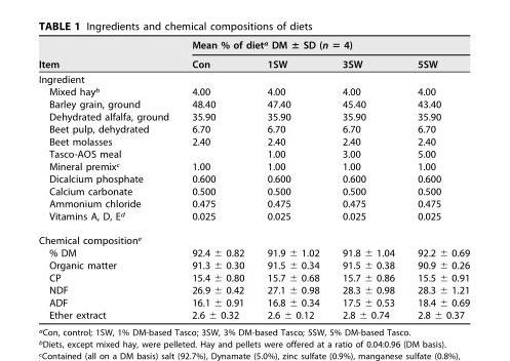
<table><thead><tr><td rowspan="2">Item</td><td colspan="4">Mean % of diet<sup>a</sup> DM ± SD (n = 4)</td></tr><tr><td>Con</td><td>1SW</td><td>3SW</td><td>5SW</td></tr></thead><tbody><tr><td colspan="5">Ingredient</td></tr><tr><td>Mixed hay<sup>b</sup></td><td>4.00</td><td>4.00</td><td>4.00</td><td>4.00</td></tr><tr><td>Barley grain, ground</td><td>48.40</td><td>47.40</td><td>45.40</td><td>43.40</td></tr><tr><td>Dehydrated alfalfa, ground</td><td>35.90</td><td>35.90</td><td>35.90</td><td>35.90</td></tr><tr><td>Beet pulp, dehydrated</td><td>6.70</td><td>6.70</td><td>6.70</td><td>6.70</td></tr><tr><td>Beet molasses</td><td>2.40</td><td>2.40</td><td>2.40</td><td>2.40</td></tr><tr><td>Tasco-AOS meal</td><td></td><td>1.00</td><td>3.00</td><td>5.00</td></tr><tr><td>Mineral premix<sup>c</sup></td><td>1.00</td><td>1.00</td><td>1.00</td><td>1.00</td></tr><tr><td>Dicalcium phosphate</td><td>0.600</td><td>0.600</td><td>0.600</td><td>0.600</td></tr><tr><td>Calcium carbonate</td><td>0.500</td><td>0.500</td><td>0.500</td><td>0.500</td></tr><tr><td>Ammonium chloride</td><td>0.475</td><td>0.475</td><td>0.475</td><td>0.475</td></tr><tr><td>Vitamins A, D, E<sup>d</sup></td><td>0.025</td><td>0.025</td><td>0.025</td><td>0.025</td></tr><tr><td colspan="5">Chemical composition<sup>e</sup></td></tr><tr><td>% DM</td><td>92.4 ± 0.82</td><td>91.9 ± 1.02</td><td>91.8 ± 1.04</td><td>92.2 ± 0.69</td></tr><tr><td>Organic matter</td><td>91.3 ± 0.30</td><td>91.5 ± 0.34</td><td>91.5 ± 0.38</td><td>90.9 ± 0.26</td></tr><tr><td>CP</td><td>15.4 ± 0.80</td><td>15.7 ± 0.68</td><td>15.7 ± 0.86</td><td>15.5 ± 0.91</td></tr><tr><td>NDF</td><td>26.9 ± 0.42</td><td>27.1 ± 0.98</td><td>28.3 ± 0.98</td><td>28.3 ± 1.21</td></tr><tr><td>ADF</td><td>16.1 ± 0.91</td><td>16.8 ± 0.34</td><td>17.5 ± 0.53</td><td>18.4 ± 0.69</td></tr><tr><td>Ether extract</td><td>2.6 ± 0.32</td><td>2.6 ± 0.12</td><td>2.8 ± 0.74</td><td>2.8 ± 0.37</td></tr></tbody></table>